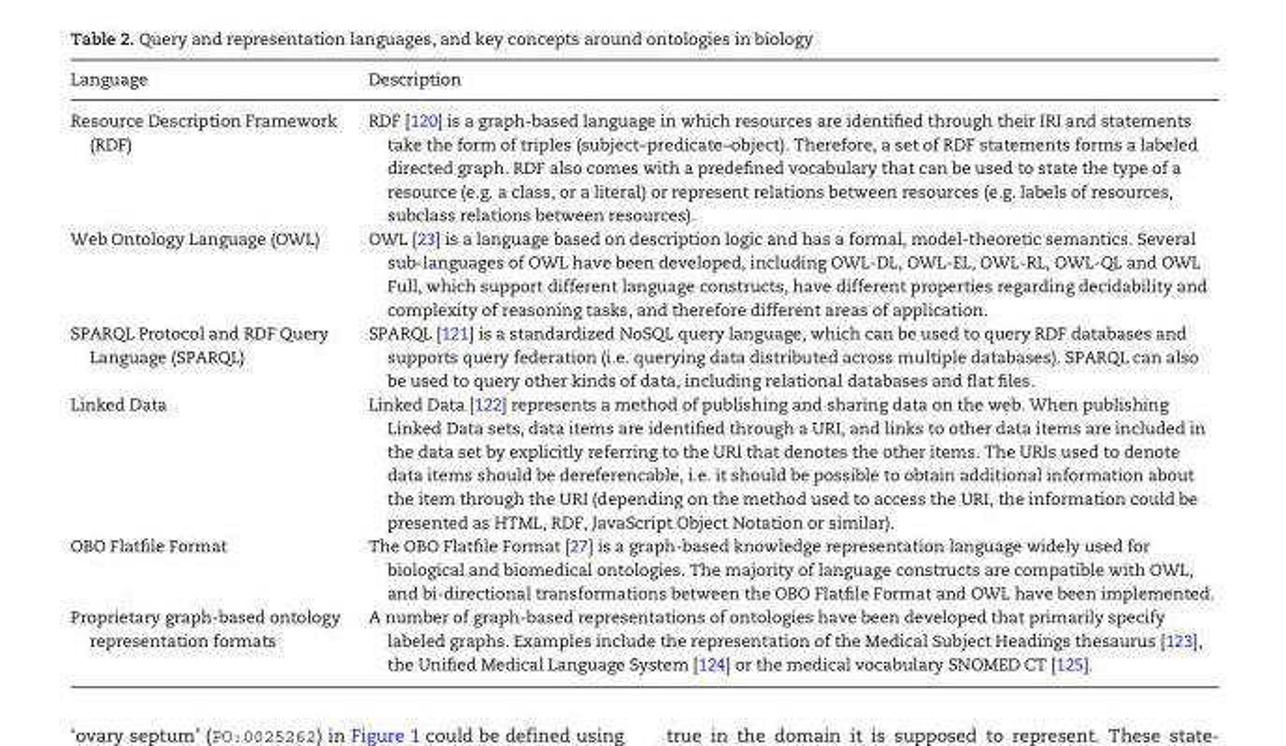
<table><thead><tr><td>Language</td><td>Description</td></tr></thead><tbody><tr><td>Resource Description Framework (RDF)</td><td>RDF [120] is a graph-based language in which resources are identified through their IRI and statements take the form of triples (subject–predicate–object). Therefore, a set of RDF statements forms a labeled directed graph. RDF also comes with a predefined vocabulary that can be used to state the type of a resource (e.g. a class, or a literal) or represent relations between resources (e.g. labels of resources, subclass relations between resources).</td></tr><tr><td>Web Ontology Language (OWL)</td><td>OWL [23] is a language based on description logic and has a formal, model-theoretic semantics. Several sub-languages of OWL have been developed, including OWL-DL, OWL-EL, OWL-RL, OWL-QL and OWL Full, which support different language constructs, have different properties regarding decidability and complexity of reasoning tasks, and therefore different areas of application.</td></tr><tr><td>SPARQL Protocol and RDF Query Language (SPARQL)</td><td>SPARQL [121] is a standardized NoSQL query language, which can be used to query RDF databases and supports query federation (i.e. querying data distributed across multiple databases). SPARQL can also be used to query other kinds of data, including relational databases and flat files.</td></tr><tr><td>Linked Data</td><td>Linked Data [122] represents a method of publishing and sharing data on the web. When publishing Linked Data sets, data items are identified through a URI, and links to other data items are included in the data set by explicitly referring to the URI that denotes the other items. The URIs used to denote data items should be dereferencable, i.e. it should be possible to obtain additional information about the item through the URI (depending on the method used to access the URI, the information could be presented as HTML, RDF, JavaScript Object Notation or similar).</td></tr><tr><td>OBO Flatfile Format</td><td>The OBO Flatfile Format [27] is a graph-based knowledge representation language widely used for biological and biomedical ontologies. The majority of language constructs are compatible with OWL, and bi-directional transformations between the OBO Flatfile Format and OWL have been implemented.</td></tr><tr><td>Proprietary graph-based ontology representation formats</td><td>A number of graph-based representations of ontologies have been developed that primarily specify labeled graphs. Examples include the representation of the Medical Subject Headings thesaurus [123], the Unified Medical Language System [124] or the medical vocabulary SNOMED CT [125].</td></tr></tbody></table>